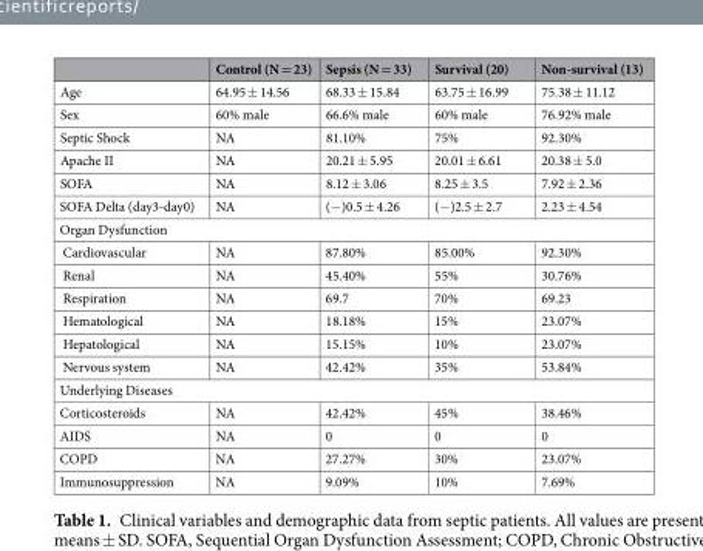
<table><thead><tr><td></td><td>Control (N = 23)</td><td>Sepsis (N = 33)</td><td>Survival (20)</td><td>Non-survival (13)</td></tr></thead><tbody><tr><td>Age</td><td>64.95 ± 14.56</td><td>68.33 ± 15.84</td><td>63.75 ± 16.99</td><td>75.38 ± 11.12</td></tr><tr><td>Sex</td><td>60% male</td><td>66.6% male</td><td>60% male</td><td>76.92% male</td></tr><tr><td>Septic Shock</td><td>NA</td><td>81.10%</td><td>75%</td><td>92.30%</td></tr><tr><td>Apache II</td><td>NA</td><td>20.21 ± 5.95</td><td>20.01 ± 6.61</td><td>20.38 ± 5.0</td></tr><tr><td>SOFA</td><td>NA</td><td>8.12 ± 3.06</td><td>8.25 ± 3.5</td><td>7.92 ± 2.36</td></tr><tr><td>SOFA Delta (day3-day0)</td><td>NA</td><td>(−)0.5 ± 4.26</td><td>(−)2.5 ± 2.7</td><td>2.23 ± 4.54</td></tr><tr><td colspan="5">Organ Dysfunction</td></tr><tr><td>Cardiovascular</td><td>NA</td><td>87.80%</td><td>85.00%</td><td>92.30%</td></tr><tr><td>Renal</td><td>NA</td><td>45.40%</td><td>55%</td><td>30.76%</td></tr><tr><td>Respiration</td><td>NA</td><td>69.7</td><td>70%</td><td>69.23</td></tr><tr><td>Hematological</td><td>NA</td><td>18.18%</td><td>15%</td><td>23.07%</td></tr><tr><td>Hepatological</td><td>NA</td><td>15.15%</td><td>10%</td><td>23.07%</td></tr><tr><td>Nervous system</td><td>NA</td><td>42.42%</td><td>35%</td><td>53.84%</td></tr><tr><td colspan="5">Underlying Diseases</td></tr><tr><td>Corticosteroids</td><td>NA</td><td>42.42%</td><td>45%</td><td>38.46%</td></tr><tr><td>AIDS</td><td>NA</td><td>0</td><td>0</td><td>0</td></tr><tr><td>COPD</td><td>NA</td><td>27.27%</td><td>30%</td><td>23.07%</td></tr><tr><td>Immunosuppression</td><td>NA</td><td>9.09%</td><td>10%</td><td>7.69%</td></tr></tbody></table>